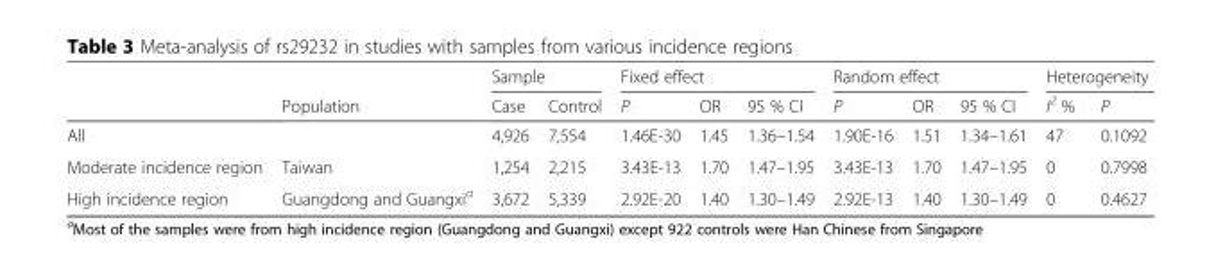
<table><thead><tr><td rowspan="2"></td><td rowspan="2">Population</td><td colspan="2">Sample</td><td colspan="3">Fixed effect</td><td colspan="3">Random effect</td><td colspan="2">Heterogeneity</td></tr><tr><td>Case</td><td>Control</td><td>P</td><td>OR</td><td>95 % CI</td><td>P</td><td>OR</td><td>95 % CI</td><td>I<sup>2</sup> %</td><td>P</td></tr></thead><tbody><tr><td>All</td><td></td><td>4,926</td><td>7,554</td><td>1.46E-30</td><td>1.45</td><td>1.36–1.54</td><td>1.90E-16</td><td>1.51</td><td>1.34–1.61</td><td>47</td><td>0.1092</td></tr><tr><td>Moderate incidence region</td><td>Taiwan</td><td>1,254</td><td>2,215</td><td>3.43E-13</td><td>1.70</td><td>1.47–1.95</td><td>3.43E-13</td><td>1.70</td><td>1.47–1.95</td><td>0</td><td>0.7998</td></tr><tr><td>High incidence region</td><td>Guangdong and Guangxi<sup>a</sup></td><td>3,672</td><td>5,339</td><td>2.92E-20</td><td>1.40</td><td>1.30–1.49</td><td>2.92E-13</td><td>1.40</td><td>1.30–1.49</td><td>0</td><td>0.4627</td></tr></tbody></table>